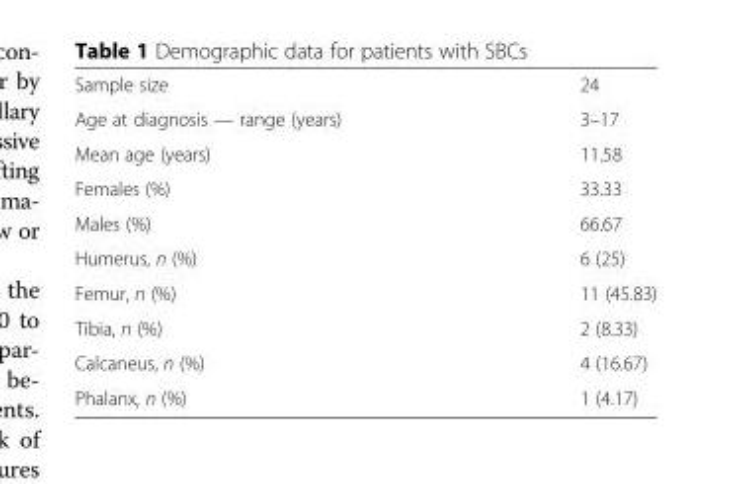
<table><tbody><tr><td>Sample size</td><td>24</td></tr><tr><td>Age at diagnosis — range (years)</td><td>3–17</td></tr><tr><td>Mean age (years)</td><td>11.58</td></tr><tr><td>Females (%)</td><td>33.33</td></tr><tr><td>Males (%)</td><td>66.67</td></tr><tr><td>Humerus, n (%)</td><td>6 (25)</td></tr><tr><td>Femur, n (%)</td><td>11 (45.83)</td></tr><tr><td>Tibia, n (%)</td><td>2 (8.33)</td></tr><tr><td>Calcaneus, n (%)</td><td>4 (16.67)</td></tr><tr><td>Phalanx, n (%)</td><td>1 (4.17)</td></tr></tbody></table>